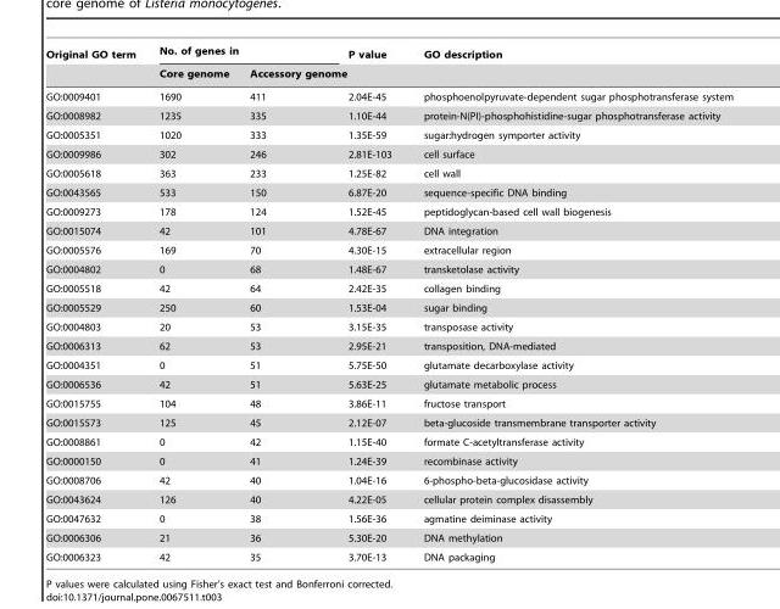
<table><thead><tr><td rowspan="2">Original GO term</td><td colspan="2">No. of genes in</td><td rowspan="2">P value</td><td rowspan="2">GO description</td></tr><tr><td>Core genome</td><td>Accessory genome</td></tr></thead><tbody><tr><td>GO:0009401</td><td>1690</td><td>411</td><td>2.04E-45</td><td>phosphoenolpyruvate-dependent sugar phosphotransferase system</td></tr><tr><td>GO:0008982</td><td>1235</td><td>335</td><td>1.10E-44</td><td>protein-N(PI)-phosphohistidine-sugar phosphotransferase activity</td></tr><tr><td>GO:0005351</td><td>1020</td><td>333</td><td>1.35E-59</td><td>sugar:hydrogen symporter activity</td></tr><tr><td>GO:0009986</td><td>302</td><td>246</td><td>2.81E-103</td><td>cell surface</td></tr><tr><td>GO:0005618</td><td>363</td><td>233</td><td>1.25E-82</td><td>cell wall</td></tr><tr><td>GO:0043565</td><td>533</td><td>150</td><td>6.87E-20</td><td>sequence-specific DNA binding</td></tr><tr><td>GO:0009273</td><td>178</td><td>124</td><td>1.52E-45</td><td>peptidoglycan-based cell wall biogenesis</td></tr><tr><td>GO:0015074</td><td>42</td><td>101</td><td>4.78E-67</td><td>DNA integration</td></tr><tr><td>GO:0005576</td><td>169</td><td>70</td><td>4.30E-15</td><td>extracellular region</td></tr><tr><td>GO:0004802</td><td>0</td><td>68</td><td>1.48E-67</td><td>transketolase activity</td></tr><tr><td>GO:0005518</td><td>42</td><td>64</td><td>2.42E-35</td><td>collagen binding</td></tr><tr><td>GO:0005529</td><td>250</td><td>60</td><td>1.53E-04</td><td>sugar binding</td></tr><tr><td>GO:0004803</td><td>20</td><td>53</td><td>3.15E-35</td><td>transposase activity</td></tr><tr><td>GO:0006313</td><td>62</td><td>53</td><td>2.95E-21</td><td>transposition, DNA-mediated</td></tr><tr><td>GO:0004351</td><td>0</td><td>51</td><td>5.75E-50</td><td>glutamate decarboxylase activity</td></tr><tr><td>GO:0006536</td><td>42</td><td>51</td><td>5.63E-25</td><td>glutamate metabolic process</td></tr><tr><td>GO:0015755</td><td>104</td><td>48</td><td>3.86E-11</td><td>fructose transport</td></tr><tr><td>GO:0015573</td><td>125</td><td>45</td><td>2.12E-07</td><td>beta-glucoside transmembrane transporter activity</td></tr><tr><td>GO:0008861</td><td>0</td><td>42</td><td>1.15E-40</td><td>formate C-acetyltransferase activity</td></tr><tr><td>GO:0000150</td><td>0</td><td>41</td><td>1.24E-39</td><td>recombinase activity</td></tr><tr><td>GO:0008706</td><td>42</td><td>40</td><td>1.04E-16</td><td>6-phospho-beta-glucosidase activity</td></tr><tr><td>GO:0043624</td><td>126</td><td>40</td><td>4.22E-05</td><td>cellular protein complex disassembly</td></tr><tr><td>GO:0047632</td><td>0</td><td>38</td><td>1.56E-36</td><td>agmatine deiminase activity</td></tr><tr><td>GO:0006306</td><td>21</td><td>36</td><td>5.30E-20</td><td>DNA methylation</td></tr><tr><td>GO:0006323</td><td>42</td><td>35</td><td>3.70E-13</td><td>DNA packaging</td></tr></tbody></table>